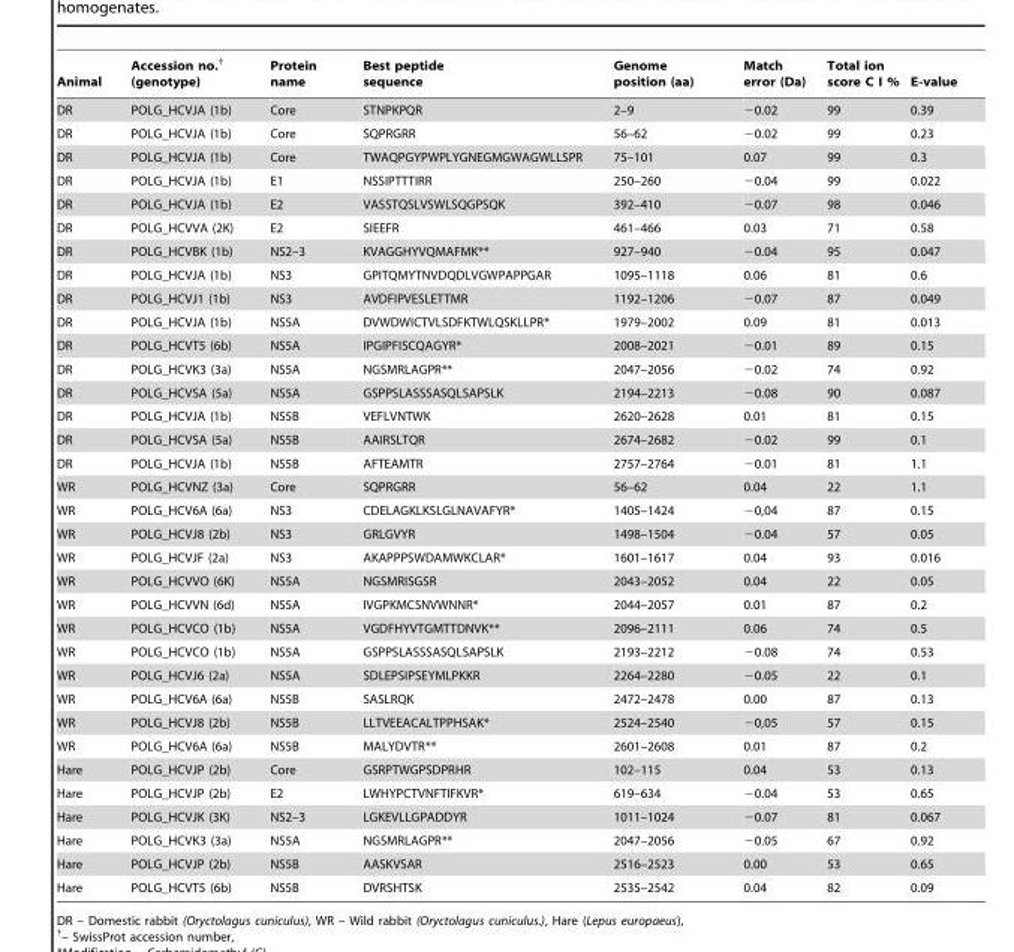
<table><thead><tr><td>Animal</td><td>Accession no.† (genotype)</td><td>Protein name</td><td>Best peptide sequence</td><td>Genome position (aa)</td><td>Match error (Da)</td><td>Total ion score C I %</td><td>E-value</td></tr></thead><tbody><tr><td>DR</td><td>POLG_HCVJA (1b)</td><td>Core</td><td>STNPKPQR</td><td>2–9</td><td>−0.02</td><td>99</td><td>0.39</td></tr><tr><td>DR</td><td>POLG_HCVJA (1b)</td><td>Core</td><td>SQPRGRR</td><td>56–62</td><td>−0.02</td><td>99</td><td>0.23</td></tr><tr><td>DR</td><td>POLG_HCVJA (1b)</td><td>Core</td><td>TWAQPGYPWPLYGNEGMGWAGWLLSPR</td><td>75–101</td><td>0.07</td><td>99</td><td>0.3</td></tr><tr><td>DR</td><td>POLG_HCVJA (1b)</td><td>E1</td><td>NSSIPTTTIRR</td><td>250–260</td><td>−0.04</td><td>99</td><td>0.022</td></tr><tr><td>DR</td><td>POLG_HCVJA (1b)</td><td>E2</td><td>VASSTQSLVSWLSQGPSQK</td><td>392–410</td><td>−0.07</td><td>98</td><td>0.046</td></tr><tr><td>DR</td><td>POLG_HCVVA (2K)</td><td>E2</td><td>SIEEFR</td><td>461–466</td><td>0.03</td><td>71</td><td>0.58</td></tr><tr><td>DR</td><td>POLG_HCVBK (1b)</td><td>NS2–3</td><td>KVAGGHYVQMAFMK**</td><td>927–940</td><td>−0.04</td><td>95</td><td>0.047</td></tr><tr><td>DR</td><td>POLG_HCVJA (1b)</td><td>NS3</td><td>GPITQMYTNVDQDLVGWPAPPGAR</td><td>1095–1118</td><td>0.06</td><td>81</td><td>0.6</td></tr><tr><td>DR</td><td>POLG_HCVJ1 (1b)</td><td>NS3</td><td>AVDFIPVESLETTMR</td><td>1192–1206</td><td>−0.07</td><td>87</td><td>0.049</td></tr><tr><td>DR</td><td>POLG_HCVJA (1b)</td><td>NS5A</td><td>DVWDWICTVLSDFKTWLQSKLLPR*</td><td>1979–2002</td><td>0.09</td><td>81</td><td>0.013</td></tr><tr><td>DR</td><td>POLG_HCVT5 (6b)</td><td>NS5A</td><td>IPGIPFISCQAGYR*</td><td>2008–2021</td><td>−0.01</td><td>89</td><td>0.15</td></tr><tr><td>DR</td><td>POLG_HCVK3 (3a)</td><td>NS5A</td><td>NGSMRLAGPR**</td><td>2047–2056</td><td>−0.02</td><td>74</td><td>0.92</td></tr><tr><td>DR</td><td>POLG_HCVSA (5a)</td><td>NS5A</td><td>GSPPSLASSSASQLSAPSLK</td><td>2194–2213</td><td>−0.08</td><td>90</td><td>0.087</td></tr><tr><td>DR</td><td>POLG_HCVJA (1b)</td><td>NS5B</td><td>VEFLVNTWK</td><td>2620–2628</td><td>0.01</td><td>81</td><td>0.15</td></tr><tr><td>DR</td><td>POLG_HCVSA (5a)</td><td>NS5B</td><td>AAIRSLTQR</td><td>2674–2682</td><td>−0.02</td><td>99</td><td>0.1</td></tr><tr><td>DR</td><td>POLG_HCVJA (1b)</td><td>NS5B</td><td>AFTEAMTR</td><td>2757–2764</td><td>−0.01</td><td>81</td><td>1.1</td></tr><tr><td>WR</td><td>POLG_HCVNZ (3a)</td><td>Core</td><td>SQPRGRR</td><td>56–62</td><td>0.04</td><td>22</td><td>1.1</td></tr><tr><td>WR</td><td>POLG_HCV6A (6a)</td><td>NS3</td><td>CDELAGKLKSLGLNAVAFYR*</td><td>1405–1424</td><td>−0,04</td><td>87</td><td>0.15</td></tr><tr><td>WR</td><td>POLG_HCVJ8 (2b)</td><td>NS3</td><td>GRLGVYR</td><td>1498–1504</td><td>−0.04</td><td>57</td><td>0.05</td></tr><tr><td>WR</td><td>POLG_HCVJF (2a)</td><td>NS3</td><td>AKAPPPSWDAMWKCLAR*</td><td>1601–1617</td><td>0.04</td><td>93</td><td>0.016</td></tr><tr><td>WR</td><td>POLG_HCVVO (6K)</td><td>NS5A</td><td>NGSMRISGSR</td><td>2043–2052</td><td>0.04</td><td>22</td><td>0.05</td></tr><tr><td>WR</td><td>POLG_HCVVN (6d)</td><td>NS5A</td><td>IVGPKMCSNVWNNR*</td><td>2044–2057</td><td>0.01</td><td>87</td><td>0.2</td></tr><tr><td>WR</td><td>POLG_HCVCO (1b)</td><td>NS5A</td><td>VGDFHYVTGMTTDNVK**</td><td>2096–2111</td><td>0.06</td><td>74</td><td>0.5</td></tr><tr><td>WR</td><td>POLG_HCVCO (1b)</td><td>NS5A</td><td>GSPPSLASSSASQLSAPSLK</td><td>2193–2212</td><td>−0.08</td><td>74</td><td>0.53</td></tr><tr><td>WR</td><td>POLG_HCVJ6 (2a)</td><td>NS5A</td><td>SDLEPSIPSEYMLPKKR</td><td>2264–2280</td><td>−0.05</td><td>22</td><td>0.1</td></tr><tr><td>WR</td><td>POLG_HCV6A (6a)</td><td>NS5B</td><td>SASLRQK</td><td>2472–2478</td><td>0.00</td><td>87</td><td>0.13</td></tr><tr><td>WR</td><td>POLG_HCVJ8 (2b)</td><td>NS5B</td><td>LLTVEEACALTPPHSAK*</td><td>2524–2540</td><td>−0,05</td><td>57</td><td>0.15</td></tr><tr><td>WR</td><td>POLG_HCV6A (6a)</td><td>NS5B</td><td>MALYDVTR**</td><td>2601–2608</td><td>0.01</td><td>87</td><td>0.2</td></tr><tr><td>Hare</td><td>POLG_HCVJP (2b)</td><td>Core</td><td>GSRPTWGPSDPRHR</td><td>102–115</td><td>0.04</td><td>53</td><td>0.13</td></tr><tr><td>Hare</td><td>POLG_HCVJP (2b)</td><td>E2</td><td>LWHYPCTVNFTIFKVR*</td><td>619–634</td><td>−0.04</td><td>53</td><td>0.65</td></tr><tr><td>Hare</td><td>POLG_HCVJK (3K)</td><td>NS2–3</td><td>LGKEVLLGPADDYR</td><td>1011–1024</td><td>−0.07</td><td>81</td><td>0.067</td></tr><tr><td>Hare</td><td>POLG_HCVK3 (3a)</td><td>NS5A</td><td>NGSMRLAGPR**</td><td>2047–2056</td><td>−0.05</td><td>67</td><td>0.92</td></tr><tr><td>Hare</td><td>POLG_HCVJP (2b)</td><td>NS5B</td><td>AASKVSAR</td><td>2516–2523</td><td>0.00</td><td>53</td><td>0.65</td></tr><tr><td>Hare</td><td>POLG_HCVT5 (6b)</td><td>NS5B</td><td>DVRSHTSK</td><td>2535–2542</td><td>0.04</td><td>82</td><td>0.09</td></tr></tbody></table>